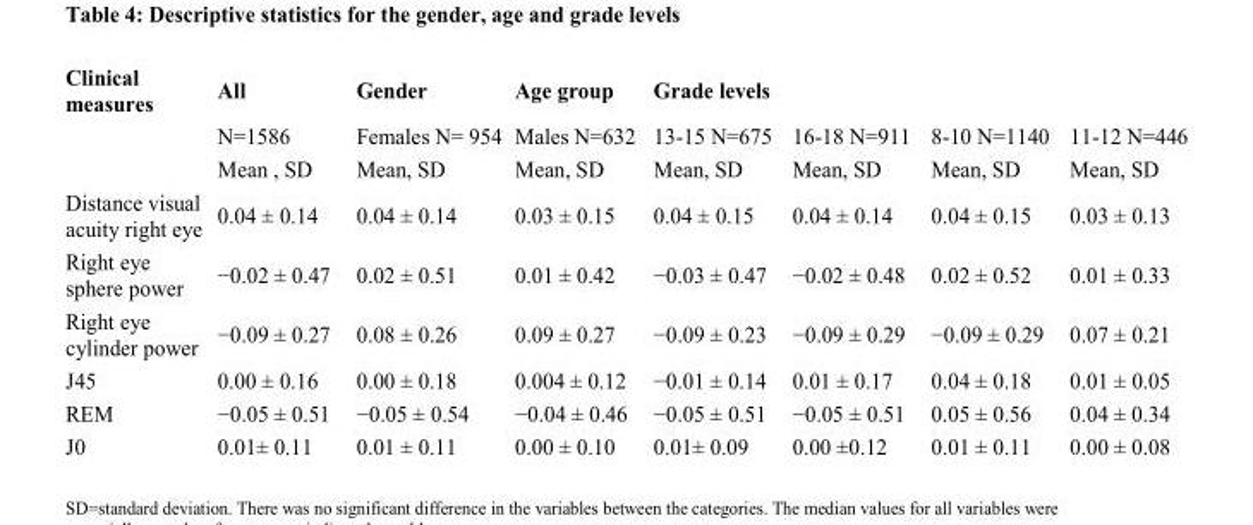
<table><thead><tr><td rowspan="3">Clinical measures</td><td rowspan="3">All N=1586 Mean , SD</td><td rowspan="3">Gender Females N= 954 Mean, SD</td><td rowspan="3">Age group Males N=632 Mean, SD</td><td rowspan="3">Grade levels 13-15 N=675 Mean, SD</td><td rowspan="3">16-18 N=911 Mean, SD</td><td rowspan="3">8-10 N=1140 Mean, SD</td><td rowspan="3">11-12 N=446 Mean, SD</td></tr><tr></tr><tr></tr></thead><tbody><tr><td>Distance visual acuity right eye</td><td>0.04 ± 0.14</td><td>0.04 ± 0.14</td><td>0.03 ± 0.15</td><td>0.04 ± 0.15</td><td>0.04 ± 0.14</td><td>0.04 ± 0.15</td><td>0.03 ± 0.13</td></tr><tr><td>Right eye sphere power</td><td>−0.02 ± 0.47</td><td>0.02 ± 0.51</td><td>0.01 ± 0.42</td><td>−0.03 ± 0.47</td><td>−0.02 ± 0.48</td><td>0.02 ± 0.52</td><td>0.01 ± 0.33</td></tr><tr><td>Right eye cylinder power</td><td>−0.09 ± 0.27</td><td>0.08 ± 0.26</td><td>0.09 ± 0.27</td><td>−0.09 ± 0.23</td><td>−0.09 ± 0.29</td><td>−0.09 ± 0.29</td><td>0.07 ± 0.21</td></tr><tr><td>J45</td><td>0.00 ± 0.16</td><td>0.00 ± 0.18</td><td>0.004 ± 0.12</td><td>−0.01 ± 0.14</td><td>0.01 ± 0.17</td><td>0.04 ± 0.18</td><td>0.01 ± 0.05</td></tr><tr><td>REM</td><td>−0.05 ± 0.51</td><td>−0.05 ± 0.54</td><td>−0.04 ± 0.46</td><td>−0.05 ± 0.51</td><td>−0.05 ± 0.51</td><td>0.05 ± 0.56</td><td>0.04 ± 0.34</td></tr><tr><td>J0</td><td>0.01± 0.11</td><td>0.01 ± 0.11</td><td>0.00 ± 0.10</td><td>0.01± 0.09</td><td>0.00 ±0.12</td><td>0.01 ± 0.11</td><td>0.00 ± 0.08</td></tr></tbody></table>